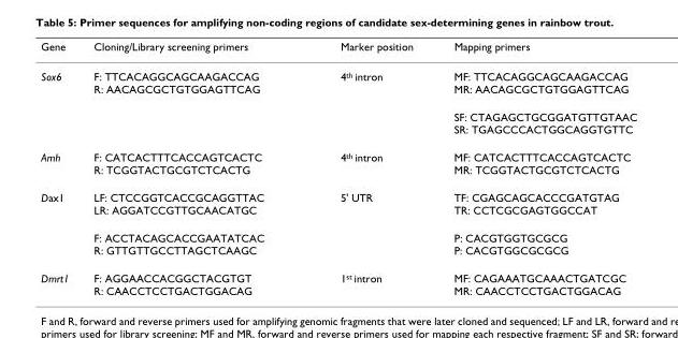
<table><thead><tr><td>Gene</td><td>Cloning/Library screening primers</td><td>Marker position</td><td>Mapping primers</td></tr></thead><tbody><tr><td rowspan="2">Sox6</td><td>F: TTCACAGGCAGCAAGACCAG R: AACAGCGCTGTGGAGTTCAG</td><td>4<sup>th</sup> intron</td><td>MF: TTCACAGGCAGCAAGACCAG MR: AACAGCGCTGTGGAGTTCAG</td></tr><tr><td></td><td></td><td>SF: CTAGAGCTGCGGATGTTGTAAC SR: TGAGCCCACTGGCAGGTGTTC</td></tr><tr><td>Amh</td><td>F: CATCACTTTCACCAGTCACTC R: TCGGTACTGCGTCTCACTG</td><td>4<sup>th</sup> intron</td><td>MF: CATCACTTTCACCAGTCACTC MR: TCGGTACTGCGTCTCACTG</td></tr><tr><td rowspan="2">Dax1</td><td>LF: CTCCGGTCACCGCAGGTTAC LR: AGGATCCGTTGCAACATGC</td><td>5&#x27; UTR</td><td>TF: CGAGCAGCACCCGATGTAG TR: CCTCGCGAGTGGCCAT</td></tr><tr><td>F: ACCTACAGCACCGAATATCAC R: GTTGTTGCCTTAGCTCAAGC</td><td></td><td>P: CACGTGGTGCGCG P: CACGTGGCGCGCG</td></tr><tr><td>Dmrt1</td><td>F: AGGAACCACGGCTACGTGT R: CAACCTCCTGACTGGACAG</td><td>1<sup>st</sup> intron</td><td>MF: CAGAAATGCAAACTGATCGC MR: CAACCTCCTGACTGGACAG</td></tr></tbody></table>